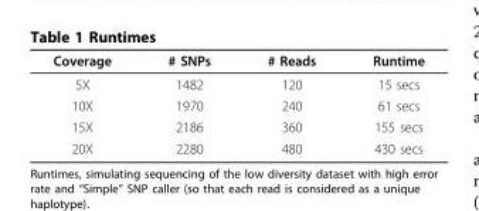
<table><thead><tr><td>Coverage</td><td># SNPs</td><td># Reads</td><td>Runtime</td></tr></thead><tbody><tr><td>5X</td><td>1482</td><td>120</td><td>15 secs</td></tr><tr><td>10X</td><td>1970</td><td>240</td><td>61 secs</td></tr><tr><td>15X</td><td>2186</td><td>360</td><td>155 secs</td></tr><tr><td>20X</td><td>2280</td><td>480</td><td>430 secs</td></tr></tbody></table>